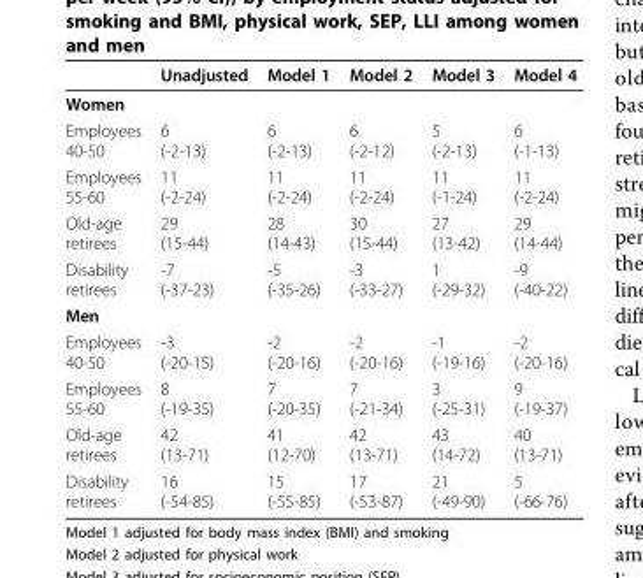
<table><thead><tr><td></td><td>Unadjusted</td><td>Model 1</td><td>Model 2</td><td>Model 3</td><td>Model 4</td></tr></thead><tbody><tr><td colspan="6">Women</td></tr><tr><td>Employees 40-50</td><td>6 (-2-13)</td><td>6 (-2-13)</td><td>6 (-2-12)</td><td>5 (-2-13)</td><td>6 (-1-13)</td></tr><tr><td>Employees 55-60</td><td>11 (-2-24)</td><td>11 (-2-24)</td><td>11 (-2-24)</td><td>11 (-1-24)</td><td>11 (-2-24)</td></tr><tr><td>Old-age retirees</td><td>29 (15-44)</td><td>28 (14-43)</td><td>30 (15-44)</td><td>27 (13-42)</td><td>29 (14-44)</td></tr><tr><td>Disability retirees</td><td>-7 (-37-23)</td><td>-5 (-35-26)</td><td>-3 (-33-27)</td><td>1 (-29-32)</td><td>-9 (-40-22)</td></tr><tr><td colspan="6">Men</td></tr><tr><td>Employees 40-50</td><td>-3 (-20-15)</td><td>-2 (-20-16)</td><td>-2 (-20-16)</td><td>-1 (-19-16)</td><td>-2 (-20-16)</td></tr><tr><td>Employees 55-60</td><td>8 (-19-35)</td><td>7 (-20-35)</td><td>7 (-21-34)</td><td>3 (-25-31)</td><td>9 (-19-37)</td></tr><tr><td>Old-age retirees</td><td>42 (13-71)</td><td>41 (12-70)</td><td>42 (13-71)</td><td>43 (14-72)</td><td>40 (13-71)</td></tr><tr><td>Disability retirees</td><td>16 (-54-85)</td><td>15 (-55-85)</td><td>17 (-53-87)</td><td>21 (-49-90)</td><td>5 (-66-76)</td></tr></tbody></table>